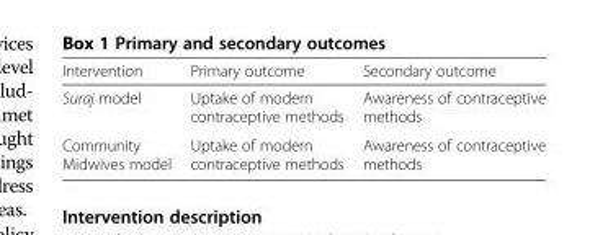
<table><thead><tr><td>Intervention</td><td>Primary outcome</td><td>Secondary outcome</td></tr></thead><tbody><tr><td>Suraj model</td><td>Uptake of modern contraceptive methods</td><td>Awareness of contraceptive methods</td></tr><tr><td>Community Midwives model</td><td>Uptake of modern contraceptive methods</td><td>Awareness of contraceptive methods</td></tr></tbody></table>